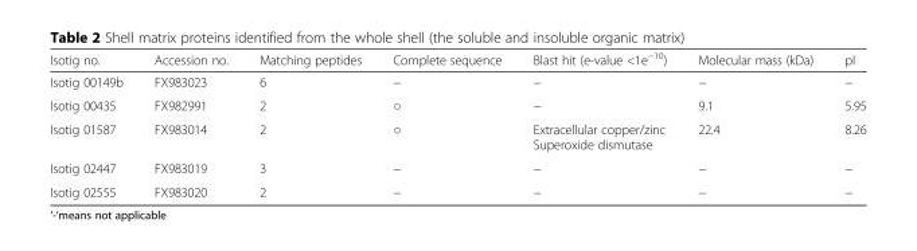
<table><thead><tr><td>Isotig no.</td><td>Accession no.</td><td>Matching peptides</td><td>Complete sequence</td><td>Blast hit (e-value &lt;1e<sup>−10</sup>)</td><td>Molecular mass (kDa)</td><td>pI</td></tr></thead><tbody><tr><td>Isotig 00149b</td><td>FX983023</td><td>6</td><td>−</td><td>−</td><td>−</td><td>−</td></tr><tr><td>Isotig 00435</td><td>FX982991</td><td>2</td><td>○</td><td>−</td><td>9.1</td><td>5.95</td></tr><tr><td>Isotig 01587</td><td>FX983014</td><td>2</td><td>○</td><td>Extracellular copper/zinc Superoxide dismutase</td><td>22.4</td><td>8.26</td></tr><tr><td>Isotig 02447</td><td>FX983019</td><td>3</td><td>−</td><td>−</td><td>−</td><td>−</td></tr><tr><td>Isotig 02555</td><td>FX983020</td><td>2</td><td>−</td><td>−</td><td>−</td><td>−</td></tr></tbody></table>